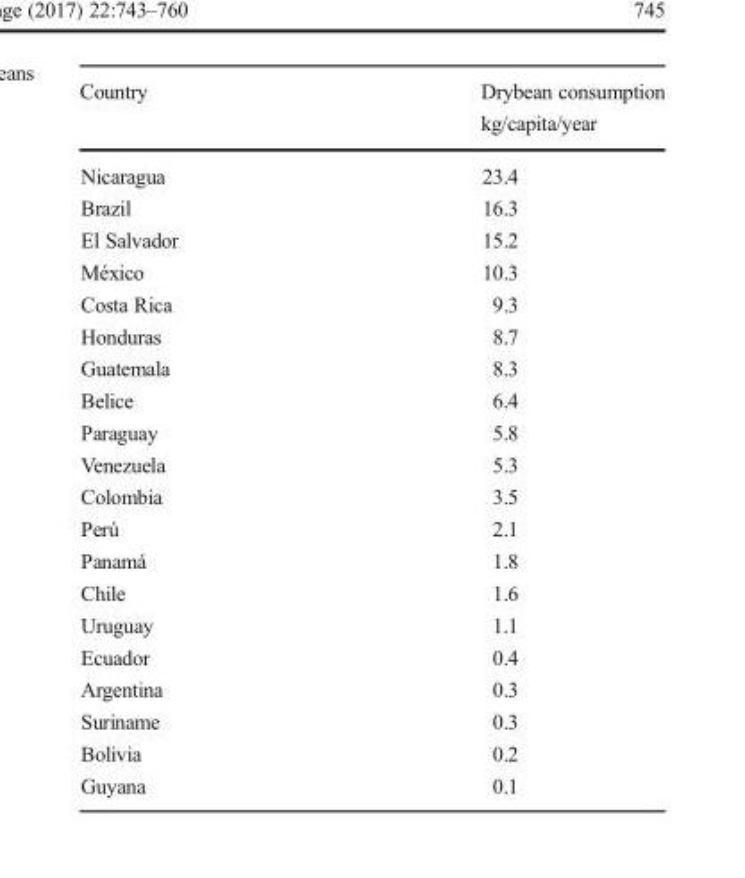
<table><thead><tr><td rowspan="2">Country</td><td rowspan="2">Drybean consumption kg/capita/year</td></tr><tr></tr></thead><tbody><tr><td>Nicaragua</td><td>23.4</td></tr><tr><td>Brazil</td><td>16.3</td></tr><tr><td>El Salvador</td><td>15.2</td></tr><tr><td>México</td><td>10.3</td></tr><tr><td>Costa Rica</td><td>9.3</td></tr><tr><td>Honduras</td><td>8.7</td></tr><tr><td>Guatemala</td><td>8.3</td></tr><tr><td>Belice</td><td>6.4</td></tr><tr><td>Paraguay</td><td>5.8</td></tr><tr><td>Venezuela</td><td>5.3</td></tr><tr><td>Colombia</td><td>3.5</td></tr><tr><td>Perú</td><td>2.1</td></tr><tr><td>Panamá</td><td>1.8</td></tr><tr><td>Chile</td><td>1.6</td></tr><tr><td>Uruguay</td><td>1.1</td></tr><tr><td>Ecuador</td><td>0.4</td></tr><tr><td>Argentina</td><td>0.3</td></tr><tr><td>Suriname</td><td>0.3</td></tr><tr><td>Bolivia</td><td>0.2</td></tr><tr><td>Guyana</td><td>0.1</td></tr></tbody></table>